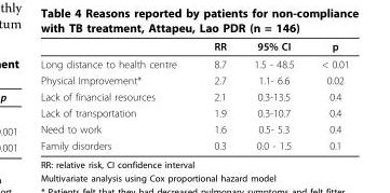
<table><thead><tr><td></td><td>RR</td><td>95% CI</td><td>p</td></tr></thead><tbody><tr><td>Long distance to health centre</td><td>8.7</td><td>1.5 - 48.5</td><td>&lt; 0.01</td></tr><tr><td>Physical Improvement*</td><td>2.7</td><td>1.1- 6.6</td><td>0.02</td></tr><tr><td>Lack of financial resources</td><td>2.1</td><td>0.3-13.5</td><td>0.4</td></tr><tr><td>Lack of transportation</td><td>1.9</td><td>0.3-10.7</td><td>0.4</td></tr><tr><td>Need to work</td><td>1.6</td><td>0.5- 5.3</td><td>0.4</td></tr><tr><td>Family disorders</td><td>0.3</td><td>0.0 - 1.5</td><td>0.1</td></tr></tbody></table>